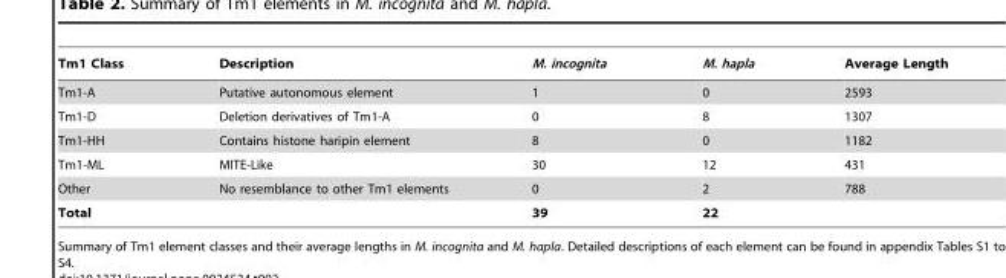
<table><thead><tr><td>Tm1 Class</td><td>Description</td><td>M. incognita</td><td>M. hapla</td><td>Average Length</td></tr></thead><tbody><tr><td>Tm1-A</td><td>Putative autonomous element</td><td>1</td><td>0</td><td>2593</td></tr><tr><td>Tm1-D</td><td>Deletion derivatives of Tm1-A</td><td>0</td><td>8</td><td>1307</td></tr><tr><td>Tm1-HH</td><td>Contains histone haripin element</td><td>8</td><td>0</td><td>1182</td></tr><tr><td>Tm1-ML</td><td>MITE-Like</td><td>30</td><td>12</td><td>431</td></tr><tr><td>Other</td><td>No resemblance to other Tm1 elements</td><td>0</td><td>2</td><td>788</td></tr><tr><td>Total</td><td></td><td>39</td><td>22</td><td></td></tr></tbody></table>